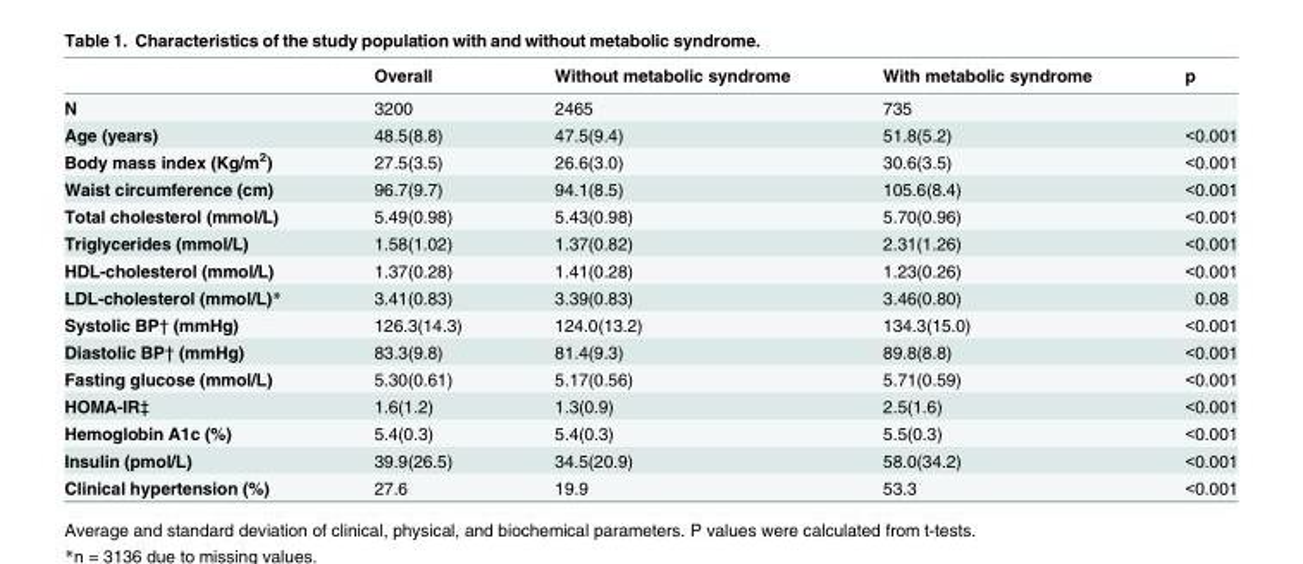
<table><thead><tr><td></td><td>Overall</td><td>Without metabolic syndrome</td><td>With metabolic syndrome</td><td>p</td></tr></thead><tbody><tr><td>N</td><td>3200</td><td>2465</td><td>735</td><td></td></tr><tr><td>Age (years)</td><td>48.5(8.8)</td><td>47.5(9.4)</td><td>51.8(5.2)</td><td>&lt;0.001</td></tr><tr><td>Body mass index (Kg/m<sup>2</sup>)</td><td>27.5(3.5)</td><td>26.6(3.0)</td><td>30.6(3.5)</td><td>&lt;0.001</td></tr><tr><td>Waist circumference (cm)</td><td>96.7(9.7)</td><td>94.1(8.5)</td><td>105.6(8.4)</td><td>&lt;0.001</td></tr><tr><td>Total cholesterol (mmol/L)</td><td>5.49(0.98)</td><td>5.43(0.98)</td><td>5.70(0.96)</td><td>&lt;0.001</td></tr><tr><td>Triglycerides (mmol/L)</td><td>1.58(1.02)</td><td>1.37(0.82)</td><td>2.31(1.26)</td><td>&lt;0.001</td></tr><tr><td>HDL-cholesterol (mmol/L)</td><td>1.37(0.28)</td><td>1.41(0.28)</td><td>1.23(0.26)</td><td>&lt;0.001</td></tr><tr><td>LDL-cholesterol (mmol/L)*</td><td>3.41(0.83)</td><td>3.39(0.83)</td><td>3.46(0.80)</td><td>0.08</td></tr><tr><td>Systolic BP† (mmHg)</td><td>126.3(14.3)</td><td>124.0(13.2)</td><td>134.3(15.0)</td><td>&lt;0.001</td></tr><tr><td>Diastolic BP† (mmHg)</td><td>83.3(9.8)</td><td>81.4(9.3)</td><td>89.8(8.8)</td><td>&lt;0.001</td></tr><tr><td>Fasting glucose (mmol/L)</td><td>5.30(0.61)</td><td>5.17(0.56)</td><td>5.71(0.59)</td><td>&lt;0.001</td></tr><tr><td>HOMA-IR‡</td><td>1.6(1.2)</td><td>1.3(0.9)</td><td>2.5(1.6)</td><td>&lt;0.001</td></tr><tr><td>Hemoglobin A1c (%)</td><td>5.4(0.3)</td><td>5.4(0.3)</td><td>5.5(0.3)</td><td>&lt;0.001</td></tr><tr><td>Insulin (pmol/L)</td><td>39.9(26.5)</td><td>34.5(20.9)</td><td>58.0(34.2)</td><td>&lt;0.001</td></tr><tr><td>Clinical hypertension (%)</td><td>27.6</td><td>19.9</td><td>53.3</td><td>&lt;0.001</td></tr></tbody></table>